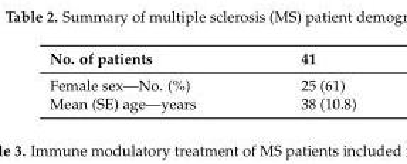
<table><thead><tr><td>No. of patients</td><td>41</td></tr></thead><tbody><tr><td>Female sex—No. (%)</td><td>25 (61)</td></tr><tr><td>Mean (SE) age—years</td><td>38 (10.8)</td></tr></tbody></table>